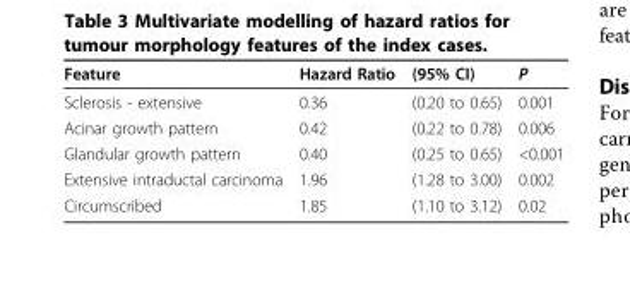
<table><thead><tr><td>Feature</td><td>Hazard Ratio</td><td>(95% CI)</td><td>P</td></tr></thead><tbody><tr><td>Sclerosis - extensive</td><td>0.36</td><td>(0.20 to 0.65)</td><td>0.001</td></tr><tr><td>Acinar growth pattern</td><td>0.42</td><td>(0.22 to 0.78)</td><td>0.006</td></tr><tr><td>Glandular growth pattern</td><td>0.40</td><td>(0.25 to 0.65)</td><td>&lt;0.001</td></tr><tr><td>Extensive intraductal carcinoma</td><td>1.96</td><td>(1.28 to 3.00)</td><td>0.002</td></tr><tr><td>Circumscribed</td><td>1.85</td><td>(1.10 to 3.12)</td><td>0.02</td></tr></tbody></table>